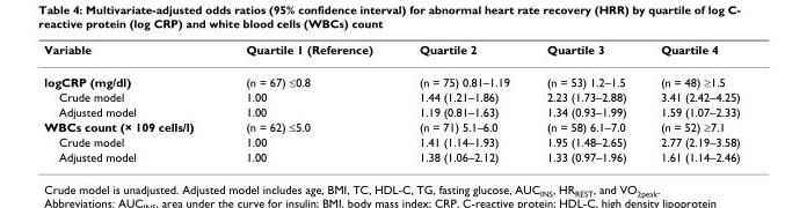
<table><thead><tr><td>Variable</td><td>Quartile 1 (Reference)</td><td>Quartile 2</td><td>Quartile 3</td><td>Quartile 4</td></tr></thead><tbody><tr><td>logCRP (mg/dl)</td><td>(n = 67) ≤0.8</td><td>(n = 75) 0.81–1.19</td><td>(n = 53) 1.2–1.5</td><td>(n = 48) ≥1.5</td></tr><tr><td>Crude model</td><td>1.00</td><td>1.44 (1.21–1.86)</td><td>2.23 (1.73–2.88)</td><td>3.41 (2.42–4.25)</td></tr><tr><td>Adjusted model</td><td>1.00</td><td>1.19 (0.81–1.63)</td><td>1.34 (0.93–1.99)</td><td>1.59 (1.07–2.33)</td></tr><tr><td>WBCs count (× 109 cells/l)</td><td>(n = 62) ≤5.0</td><td>(n = 71) 5.1–6.0</td><td>(n = 58) 6.1–7.0</td><td>(n = 52) ≥7.1</td></tr><tr><td>Crude model</td><td>1.00</td><td>1.41 (1.14–1.93)</td><td>1.95 (1.48–2.65)</td><td>2.77 (2.19–3.58)</td></tr><tr><td>Adjusted model</td><td>1.00</td><td>1.38 (1.06–2.12)</td><td>1.33 (0.97–1.96)</td><td>1.61 (1.14–2.46)</td></tr></tbody></table>